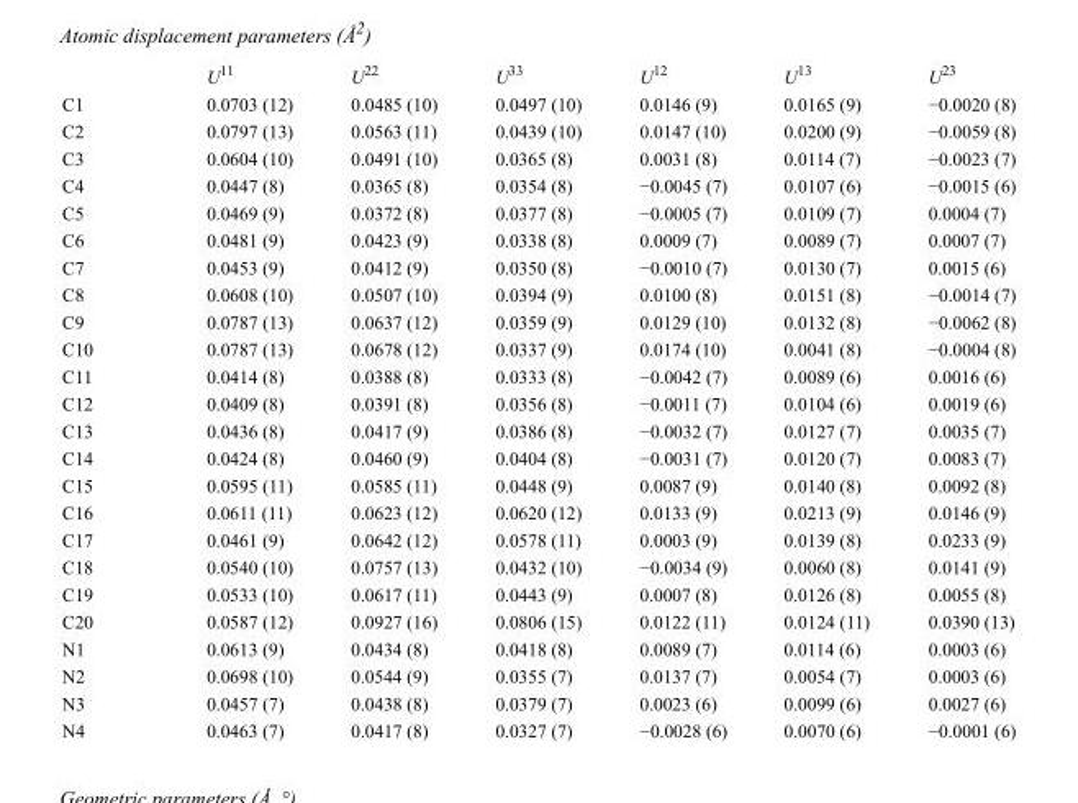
<table><thead><tr><td></td><td>U<sup>11</sup></td><td>U<sup>22</sup></td><td>U<sup>33</sup></td><td>U<sup>12</sup></td><td>U<sup>13</sup></td><td>U<sup>23</sup></td></tr></thead><tbody><tr><td>C1</td><td>0.0703 (12)</td><td>0.0485 (10)</td><td>0.0497 (10)</td><td>0.0146 (9)</td><td>0.0165 (9)</td><td>−0.0020 (8)</td></tr><tr><td>C2</td><td>0.0797 (13)</td><td>0.0563 (11)</td><td>0.0439 (10)</td><td>0.0147 (10)</td><td>0.0200 (9)</td><td>−0.0059 (8)</td></tr><tr><td>C3</td><td>0.0604 (10)</td><td>0.0491 (10)</td><td>0.0365 (8)</td><td>0.0031 (8)</td><td>0.0114 (7)</td><td>−0.0023 (7)</td></tr><tr><td>C4</td><td>0.0447 (8)</td><td>0.0365 (8)</td><td>0.0354 (8)</td><td>−0.0045 (7)</td><td>0.0107 (6)</td><td>−0.0015 (6)</td></tr><tr><td>C5</td><td>0.0469 (9)</td><td>0.0372 (8)</td><td>0.0377 (8)</td><td>−0.0005 (7)</td><td>0.0109 (7)</td><td>0.0004 (7)</td></tr><tr><td>C6</td><td>0.0481 (9)</td><td>0.0423 (9)</td><td>0.0338 (8)</td><td>0.0009 (7)</td><td>0.0089 (7)</td><td>0.0007 (7)</td></tr><tr><td>C7</td><td>0.0453 (9)</td><td>0.0412 (9)</td><td>0.0350 (8)</td><td>−0.0010 (7)</td><td>0.0130 (7)</td><td>0.0015 (6)</td></tr><tr><td>C8</td><td>0.0608 (10)</td><td>0.0507 (10)</td><td>0.0394 (9)</td><td>0.0100 (8)</td><td>0.0151 (8)</td><td>−0.0014 (7)</td></tr><tr><td>C9</td><td>0.0787 (13)</td><td>0.0637 (12)</td><td>0.0359 (9)</td><td>0.0129 (10)</td><td>0.0132 (8)</td><td>−0.0062 (8)</td></tr><tr><td>C10</td><td>0.0787 (13)</td><td>0.0678 (12)</td><td>0.0337 (9)</td><td>0.0174 (10)</td><td>0.0041 (8)</td><td>−0.0004 (8)</td></tr><tr><td>C11</td><td>0.0414 (8)</td><td>0.0388 (8)</td><td>0.0333 (8)</td><td>−0.0042 (7)</td><td>0.0089 (6)</td><td>0.0016 (6)</td></tr><tr><td>C12</td><td>0.0409 (8)</td><td>0.0391 (8)</td><td>0.0356 (8)</td><td>−0.0011 (7)</td><td>0.0104 (6)</td><td>0.0019 (6)</td></tr><tr><td>C13</td><td>0.0436 (8)</td><td>0.0417 (9)</td><td>0.0386 (8)</td><td>−0.0032 (7)</td><td>0.0127 (7)</td><td>0.0035 (7)</td></tr><tr><td>C14</td><td>0.0424 (8)</td><td>0.0460 (9)</td><td>0.0404 (8)</td><td>−0.0031 (7)</td><td>0.0120 (7)</td><td>0.0083 (7)</td></tr><tr><td>C15</td><td>0.0595 (11)</td><td>0.0585 (11)</td><td>0.0448 (9)</td><td>0.0087 (9)</td><td>0.0140 (8)</td><td>0.0092 (8)</td></tr><tr><td>C16</td><td>0.0611 (11)</td><td>0.0623 (12)</td><td>0.0620 (12)</td><td>0.0133 (9)</td><td>0.0213 (9)</td><td>0.0146 (9)</td></tr><tr><td>C17</td><td>0.0461 (9)</td><td>0.0642 (12)</td><td>0.0578 (11)</td><td>0.0003 (9)</td><td>0.0139 (8)</td><td>0.0233 (9)</td></tr><tr><td>C18</td><td>0.0540 (10)</td><td>0.0757 (13)</td><td>0.0432 (10)</td><td>−0.0034 (9)</td><td>0.0060 (8)</td><td>0.0141 (9)</td></tr><tr><td>C19</td><td>0.0533 (10)</td><td>0.0617 (11)</td><td>0.0443 (9)</td><td>0.0007 (8)</td><td>0.0126 (8)</td><td>0.0055 (8)</td></tr><tr><td>C20</td><td>0.0587 (12)</td><td>0.0927 (16)</td><td>0.0806 (15)</td><td>0.0122 (11)</td><td>0.0124 (11)</td><td>0.0390 (13)</td></tr><tr><td>N1</td><td>0.0613 (9)</td><td>0.0434 (8)</td><td>0.0418 (8)</td><td>0.0089 (7)</td><td>0.0114 (6)</td><td>0.0003 (6)</td></tr><tr><td>N2</td><td>0.0698 (10)</td><td>0.0544 (9)</td><td>0.0355 (7)</td><td>0.0137 (7)</td><td>0.0054 (7)</td><td>0.0003 (6)</td></tr><tr><td>N3</td><td>0.0457 (7)</td><td>0.0438 (8)</td><td>0.0379 (7)</td><td>0.0023 (6)</td><td>0.0099 (6)</td><td>0.0027 (6)</td></tr><tr><td>N4</td><td>0.0463 (7)</td><td>0.0417 (8)</td><td>0.0327 (7)</td><td>−0.0028 (6)</td><td>0.0070 (6)</td><td>−0.0001 (6)</td></tr></tbody></table>